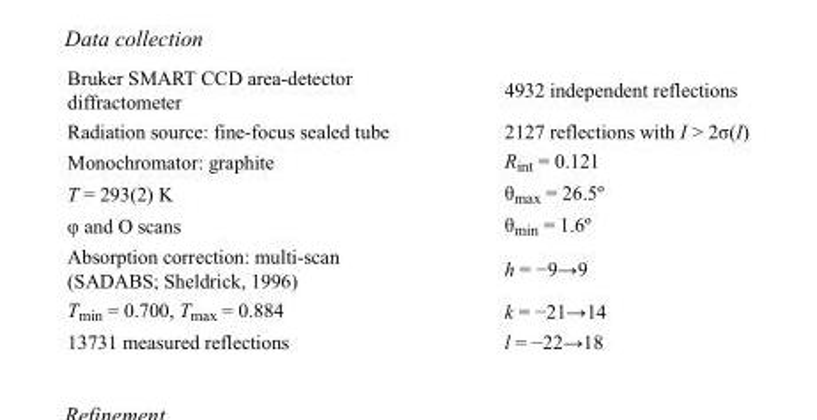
<table><tbody><tr><td>Bruker SMART CCD area-detector diffractometer</td><td>4932 independent reflections</td></tr><tr><td>Radiation source: fine-focus sealed tube</td><td>2127 reflections with I &gt; 2σ(I)</td></tr><tr><td>Monochromator: graphite</td><td>R<sub>int</sub> = 0.121</td></tr><tr><td>T = 293(2) K</td><td>θ<sub>max</sub> = 26.5º</td></tr><tr><td>φ and O scans</td><td>θ<sub>min</sub> = 1.6º</td></tr><tr><td>Absorption correction: multi-scan (SADABS; Sheldrick, 1996)</td><td>h = −9→9</td></tr><tr><td>T<sub>min</sub> = 0.700, T<sub>max</sub> = 0.884</td><td>k = −21→14</td></tr><tr><td>13731 measured reflections</td><td>l = −22→18</td></tr></tbody></table>